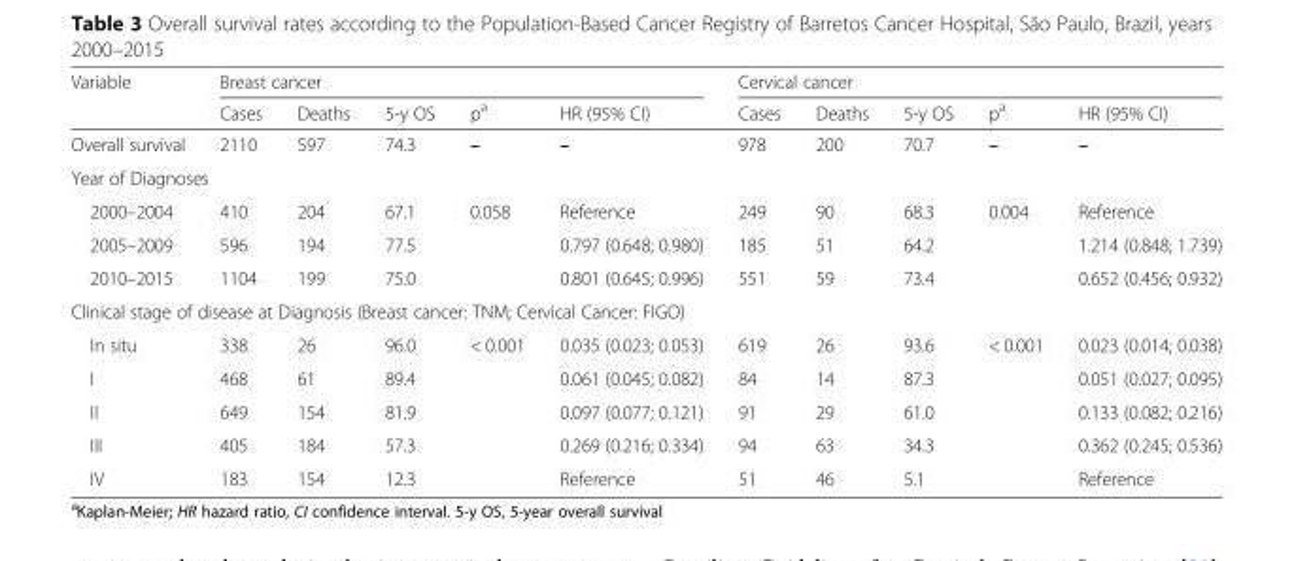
<table><thead><tr><td rowspan="2">Variable</td><td colspan="5">Breast cancer</td><td colspan="5">Cervical cancer</td></tr><tr><td>Cases</td><td>Deaths</td><td>5-y OS</td><td>p<sup>a</sup></td><td>HR (95% CI)</td><td>Cases</td><td>Deaths</td><td>5-y OS</td><td>p<sup>a</sup></td><td>HR (95% CI)</td></tr></thead><tbody><tr><td>Overall survival</td><td>2110</td><td>597</td><td>74.3</td><td>–</td><td>–</td><td>978</td><td>200</td><td>70.7</td><td>–</td><td>–</td></tr><tr><td colspan="11">Year of Diagnoses</td></tr><tr><td>2000–2004</td><td>410</td><td>204</td><td>67.1</td><td>0.058</td><td>Reference</td><td>249</td><td>90</td><td>68.3</td><td>0.004</td><td>Reference</td></tr><tr><td>2005–2009</td><td>596</td><td>194</td><td>77.5</td><td></td><td>0.797 (0.648; 0.980)</td><td>185</td><td>51</td><td>64.2</td><td></td><td>1.214 (0.848; 1.739)</td></tr><tr><td>2010–2015</td><td>1104</td><td>199</td><td>75.0</td><td></td><td>0.801 (0.645; 0.996)</td><td>551</td><td>59</td><td>73.4</td><td></td><td>0.652 (0.456; 0.932)</td></tr><tr><td colspan="11">Clinical stage of disease at Diagnosis (Breast cancer: TNM; Cervical Cancer: FIGO)</td></tr><tr><td>In situ</td><td>338</td><td>26</td><td>96.0</td><td>&lt; 0.001</td><td>0.035 (0.023; 0.053)</td><td>619</td><td>26</td><td>93.6</td><td>&lt; 0.001</td><td>0.023 (0.014; 0.038)</td></tr><tr><td>I</td><td>468</td><td>61</td><td>89.4</td><td></td><td>0.061 (0.045; 0.082)</td><td>84</td><td>14</td><td>87.3</td><td></td><td>0.051 (0.027; 0.095)</td></tr><tr><td>II</td><td>649</td><td>154</td><td>81.9</td><td></td><td>0.097 (0.077; 0.121)</td><td>91</td><td>29</td><td>61.0</td><td></td><td>0.133 (0.082; 0.216)</td></tr><tr><td>III</td><td>405</td><td>184</td><td>57.3</td><td></td><td>0.269 (0.216; 0.334)</td><td>94</td><td>63</td><td>34.3</td><td></td><td>0.362 (0.245; 0.536)</td></tr><tr><td>IV</td><td>183</td><td>154</td><td>12.3</td><td></td><td>Reference</td><td>51</td><td>46</td><td>5.1</td><td></td><td>Reference</td></tr></tbody></table>